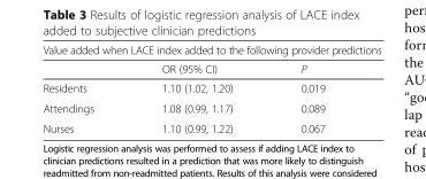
<table><thead><tr><td colspan="3">Value added when LACE index added to the following provider predictions</td></tr><tr><td></td><td>OR (95% CI)</td><td>P</td></tr></thead><tbody><tr><td>Residents</td><td>1.10 (1.02, 1.20)</td><td>0.019</td></tr><tr><td>Attendings</td><td>1.08 (0.99, 1.17)</td><td>0.089</td></tr><tr><td>Nurses</td><td>1.10 (0.99, 1.22)</td><td>0.067</td></tr></tbody></table>